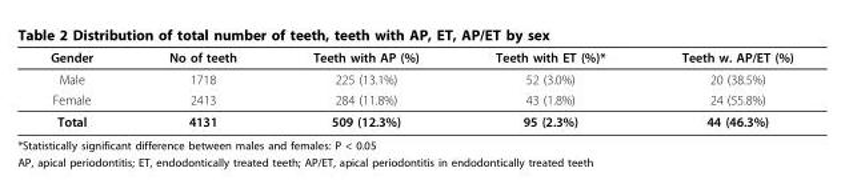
<table><thead><tr><td>Gender</td><td>No of teeth</td><td>Teeth with AP (%)</td><td>Teeth with ET (%)*</td><td>Teeth w. AP/ET (%)</td></tr></thead><tbody><tr><td>Male</td><td>1718</td><td>225 (13.1%)</td><td>52 (3.0%)</td><td>20 (38.5%)</td></tr><tr><td>Female</td><td>2413</td><td>284 (11.8%)</td><td>43 (1.8%)</td><td>24 (55.8%)</td></tr><tr><td>Total</td><td>4131</td><td>509 (12.3%)</td><td>95 (2.3%)</td><td>44 (46.3%)</td></tr></tbody></table>